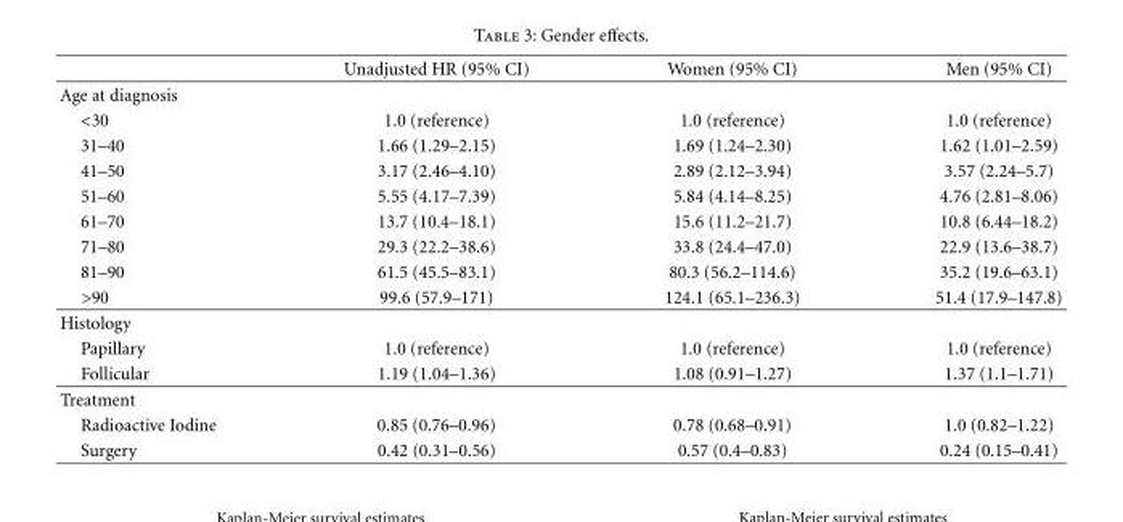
<table><thead><tr><td></td><td>Unadjusted HR (95% CI)</td><td>Women (95% CI)</td><td>Men (95% CI)</td></tr></thead><tbody><tr><td colspan="4">Age at diagnosis</td></tr><tr><td>&lt;30</td><td>1.0 (reference)</td><td>1.0 (reference)</td><td>1.0 (reference)</td></tr><tr><td>31–40</td><td>1.66 (1.29–2.15)</td><td>1.69 (1.24–2.30)</td><td>1.62 (1.01–2.59)</td></tr><tr><td>41–50</td><td>3.17 (2.46–4.10)</td><td>2.89 (2.12–3.94)</td><td>3.57 (2.24–5.7)</td></tr><tr><td>51–60</td><td>5.55 (4.17–7.39)</td><td>5.84 (4.14–8.25)</td><td>4.76 (2.81–8.06)</td></tr><tr><td>61–70</td><td>13.7 (10.4–18.1)</td><td>15.6 (11.2–21.7)</td><td>10.8 (6.44–18.2)</td></tr><tr><td>71–80</td><td>29.3 (22.2–38.6)</td><td>33.8 (24.4–47.0)</td><td>22.9 (13.6–38.7)</td></tr><tr><td>81–90</td><td>61.5 (45.5–83.1)</td><td>80.3 (56.2–114.6)</td><td>35.2 (19.6–63.1)</td></tr><tr><td>&gt;90</td><td>99.6 (57.9–171)</td><td>124.1 (65.1–236.3)</td><td>51.4 (17.9–147.8)</td></tr><tr><td colspan="4">Histology</td></tr><tr><td>Papillary</td><td>1.0 (reference)</td><td>1.0 (reference)</td><td>1.0 (reference)</td></tr><tr><td>Follicular</td><td>1.19 (1.04–1.36)</td><td>1.08 (0.91–1.27)</td><td>1.37 (1.1–1.71)</td></tr><tr><td colspan="4">Treatment</td></tr><tr><td>Radioactive Iodine</td><td>0.85 (0.76–0.96)</td><td>0.78 (0.68–0.91)</td><td>1.0 (0.82–1.22)</td></tr><tr><td>Surgery</td><td>0.42 (0.31–0.56)</td><td>0.57 (0.4–0.83)</td><td>0.24 (0.15–0.41)</td></tr></tbody></table>